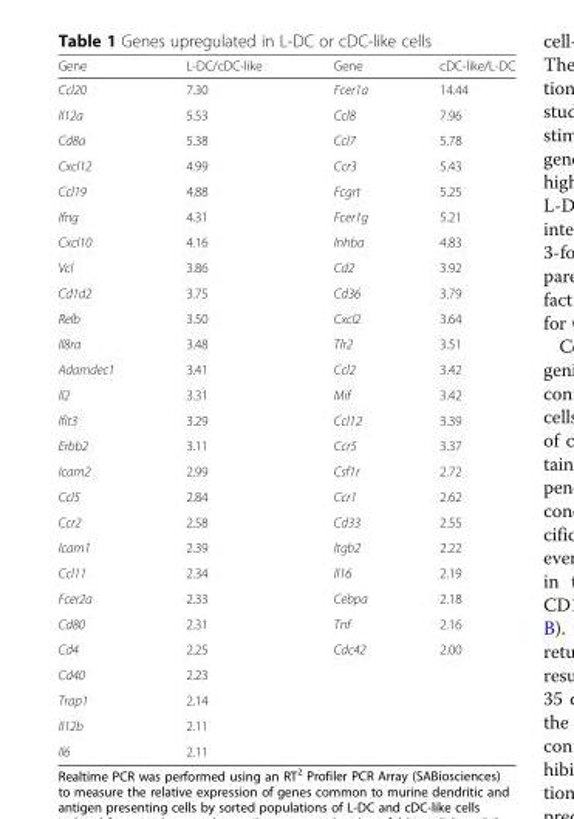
<table><thead><tr><td>Gene</td><td>L-DC/cDC-like</td><td>Gene</td><td>cDC-like/L-DC</td></tr></thead><tbody><tr><td>Ccl20</td><td>7.30</td><td>Fcer1a</td><td>14.44</td></tr><tr><td>Il12a</td><td>5.53</td><td>Ccl8</td><td>7.96</td></tr><tr><td>Cd8a</td><td>5.38</td><td>Ccl7</td><td>5.78</td></tr><tr><td>Cxcl12</td><td>4.99</td><td>Ccr3</td><td>5.43</td></tr><tr><td>Ccl19</td><td>4.88</td><td>Fcgrt</td><td>5.25</td></tr><tr><td>Ifng</td><td>4.31</td><td>Fcer1g</td><td>5.21</td></tr><tr><td>Cxcl10</td><td>4.16</td><td>Inhba</td><td>4.83</td></tr><tr><td>Vcl</td><td>3.86</td><td>Cd2</td><td>3.92</td></tr><tr><td>Cd1d2</td><td>3.75</td><td>Cd36</td><td>3.79</td></tr><tr><td>Relb</td><td>3.50</td><td>Cxcl2</td><td>3.64</td></tr><tr><td>Il8ra</td><td>3.48</td><td>Tlr2</td><td>3.51</td></tr><tr><td>Adamdec1</td><td>3.41</td><td>Ccl2</td><td>3.42</td></tr><tr><td>Il2</td><td>3.31</td><td>Mif</td><td>3.42</td></tr><tr><td>Ifit3</td><td>3.29</td><td>Ccl12</td><td>3.39</td></tr><tr><td>Erbb2</td><td>3.11</td><td>Ccr5</td><td>3.37</td></tr><tr><td>Icam2</td><td>2.99</td><td>Csf1r</td><td>2.72</td></tr><tr><td>Ccl5</td><td>2.84</td><td>Ccr1</td><td>2.62</td></tr><tr><td>Ccr2</td><td>2.58</td><td>Cd33</td><td>2.55</td></tr><tr><td>Icam1</td><td>2.39</td><td>Itgb2</td><td>2.22</td></tr><tr><td>Ccl11</td><td>2.34</td><td>Il16</td><td>2.19</td></tr><tr><td>Fcer2a</td><td>2.33</td><td>Cebpa</td><td>2.18</td></tr><tr><td>Cd80</td><td>2.31</td><td>Tnf</td><td>2.16</td></tr><tr><td>Cd4</td><td>2.25</td><td>Cdc42</td><td>2.00</td></tr><tr><td>Cd40</td><td>2.23</td><td></td><td></td></tr><tr><td>Trap1</td><td>2.14</td><td></td><td></td></tr><tr><td>Il12b</td><td>2.11</td><td></td><td></td></tr><tr><td>Il6</td><td>2.11</td><td></td><td></td></tr></tbody></table>